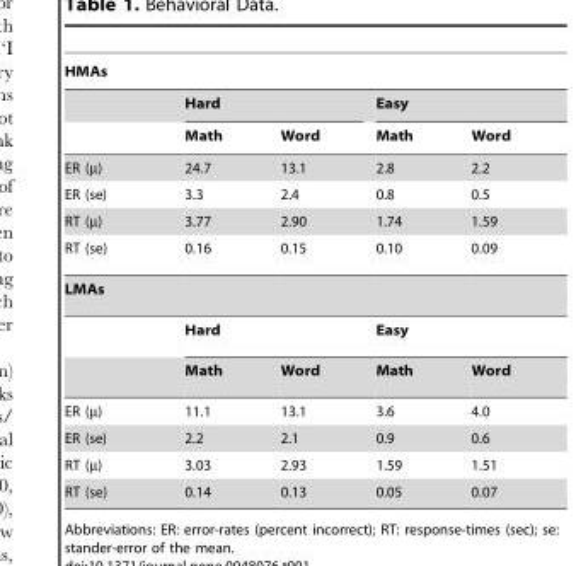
<table><thead><tr><td colspan="5">HMAs</td></tr><tr><td rowspan="2"></td><td colspan="2">Hard</td><td colspan="2">Easy</td></tr><tr><td>Math</td><td>Word</td><td>Math</td><td>Word</td></tr></thead><tbody><tr><td>ER (µ)</td><td>24.7</td><td>13.1</td><td>2.8</td><td>2.2</td></tr><tr><td>ER (se)</td><td>3.3</td><td>2.4</td><td>0.8</td><td>0.5</td></tr><tr><td>RT (µ)</td><td>3.77</td><td>2.90</td><td>1.74</td><td>1.59</td></tr><tr><td>RT (se)</td><td>0.16</td><td>0.15</td><td>0.10</td><td>0.09</td></tr><tr><td colspan="5">LMAs</td></tr><tr><td></td><td colspan="2">Hard</td><td colspan="2">Easy</td></tr><tr><td></td><td>Math</td><td>Word</td><td>Math</td><td>Word</td></tr><tr><td>ER (µ)</td><td>11.1</td><td>13.1</td><td>3.6</td><td>4.0</td></tr><tr><td>ER (se)</td><td>2.2</td><td>2.1</td><td>0.9</td><td>0.6</td></tr><tr><td>RT (µ)</td><td>3.03</td><td>2.93</td><td>1.59</td><td>1.51</td></tr><tr><td>RT (se)</td><td>0.14</td><td>0.13</td><td>0.05</td><td>0.07</td></tr></tbody></table>